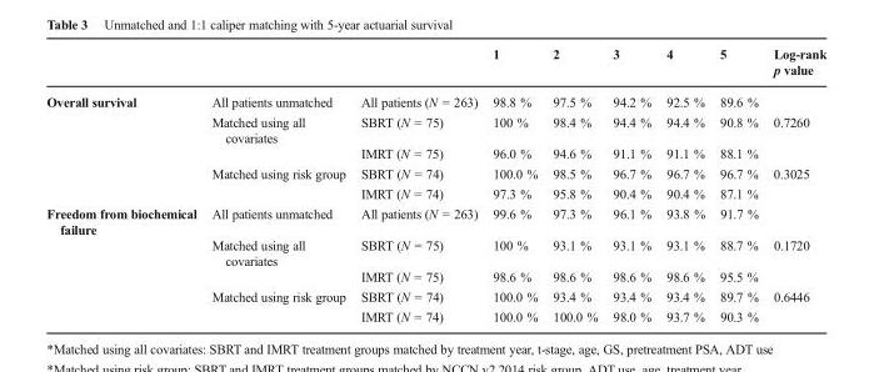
<table><thead><tr><td></td><td></td><td></td><td>1</td><td>2</td><td>3</td><td>4</td><td>5</td><td>Log-rank p value</td></tr></thead><tbody><tr><td rowspan="5">Overall survival</td><td>All patients unmatched</td><td>All patients (N = 263)</td><td>98.8 %</td><td>97.5 %</td><td>94.2 %</td><td>92.5 %</td><td>89.6 %</td><td></td></tr><tr><td>Matched using all covariates</td><td>SBRT (N = 75)</td><td>100 %</td><td>98.4 %</td><td>94.4 %</td><td>94.4 %</td><td>90.8 %</td><td>0.7260</td></tr><tr><td></td><td>IMRT (N = 75)</td><td>96.0 %</td><td>94.6 %</td><td>91.1 %</td><td>91.1 %</td><td>88.1 %</td><td></td></tr><tr><td>Matched using risk group</td><td>SBRT (N = 74)</td><td>100.0 %</td><td>98.5 %</td><td>96.7 %</td><td>96.7 %</td><td>96.7 %</td><td>0.3025</td></tr><tr><td></td><td>IMRT (N = 74)</td><td>97.3 %</td><td>95.8 %</td><td>90.4 %</td><td>90.4 %</td><td>87.1 %</td><td></td></tr><tr><td rowspan="5">Freedom from biochemical failure</td><td>All patients unmatched</td><td>All patients (N = 263)</td><td>99.6 %</td><td>97.3 %</td><td>96.1 %</td><td>93.8 %</td><td>91.7 %</td><td></td></tr><tr><td>Matched using all covariates</td><td>SBRT (N = 75)</td><td>100 %</td><td>93.1 %</td><td>93.1 %</td><td>93.1 %</td><td>88.7 %</td><td>0.1720</td></tr><tr><td></td><td>IMRT (N = 75)</td><td>98.6 %</td><td>98.6 %</td><td>98.6 %</td><td>98.6 %</td><td>95.5 %</td><td></td></tr><tr><td>Matched using risk group</td><td>SBRT (N = 74)</td><td>100.0 %</td><td>93.4 %</td><td>93.4 %</td><td>93.4 %</td><td>89.7 %</td><td>0.6446</td></tr><tr><td></td><td>IMRT (N = 74)</td><td>100.0 %</td><td>100.0 %</td><td>98.0 %</td><td>93.7 %</td><td>90.3 %</td><td></td></tr></tbody></table>